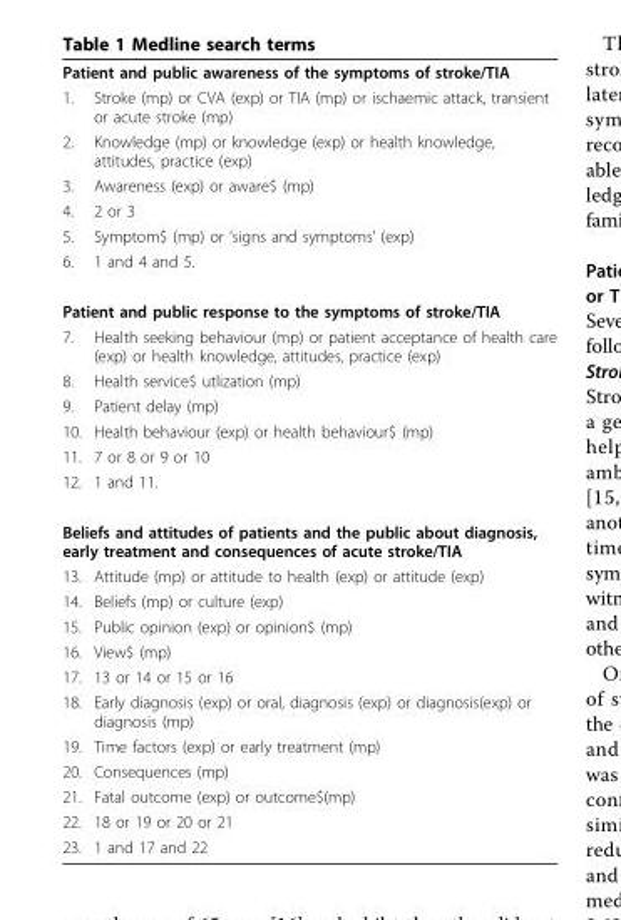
<table><tbody><tr><td colspan="2">Patient and public awareness of the symptoms of stroke/TIA</td></tr><tr><td>1.</td><td>Stroke (mp) or CVA (exp) or TIA (mp) or ischaemic attack, transient or acute stroke (mp)</td></tr><tr><td>2.</td><td>Knowledge (mp) or knowledge (exp) or health knowledge, attitudes, practice (exp)</td></tr><tr><td>3.</td><td>Awareness (exp) or aware$ (mp)</td></tr><tr><td>4.</td><td>2 or 3</td></tr><tr><td>5.</td><td>Symptom$ (mp) or ‘signs and symptoms’ (exp)</td></tr><tr><td>6.</td><td>1 and 4 and 5.</td></tr><tr><td colspan="2">Patient and public response to the symptoms of stroke/TIA</td></tr><tr><td>7.</td><td>Health seeking behaviour (mp) or patient acceptance of health care (exp) or health knowledge, attitudes, practice (exp)</td></tr><tr><td>8.</td><td>Health service$ utlization (mp)</td></tr><tr><td>9.</td><td>Patient delay (mp)</td></tr><tr><td>10.</td><td>Health behaviour (exp) or health behaviour$ (mp)</td></tr><tr><td>11.</td><td>7 or 8 or 9 or 10</td></tr><tr><td>12.</td><td>1 and 11.</td></tr><tr><td colspan="2">Beliefs and attitudes of patients and the public about diagnosis, early treatment and consequences of acute stroke/TIA</td></tr><tr><td>13.</td><td>Attitude (mp) or attitude to health (exp) or attitude (exp)</td></tr><tr><td>14.</td><td>Beliefs (mp) or culture (exp)</td></tr><tr><td>15.</td><td>Public opinion (exp) or opinion$ (mp)</td></tr><tr><td>16.</td><td>View$ (mp)</td></tr><tr><td>17.</td><td>13 or 14 or 15 or 16</td></tr><tr><td>18.</td><td>Early diagnosis (exp) or oral, diagnosis (exp) or diagnosis(exp) or diagnosis (mp)</td></tr><tr><td>19.</td><td>Time factors (exp) or early treatment (mp)</td></tr><tr><td>20.</td><td>Consequences (mp)</td></tr><tr><td>21.</td><td>Fatal outcome (exp) or outcome$(mp)</td></tr><tr><td>22.</td><td>18 or 19 or 20 or 21</td></tr><tr><td>23.</td><td>1 and 17 and 22</td></tr></tbody></table>